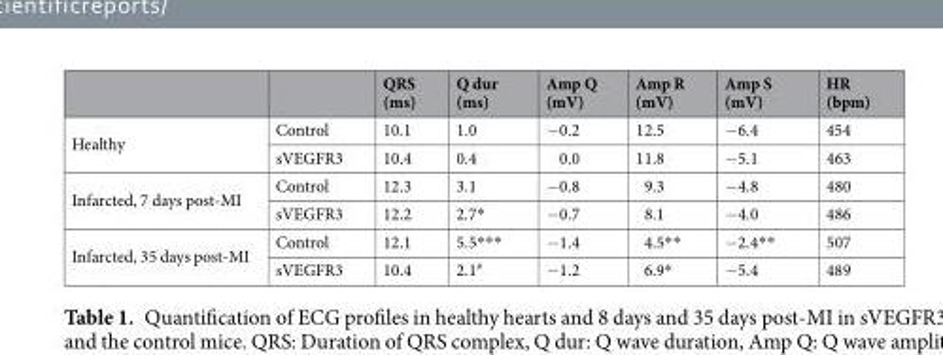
<table><thead><tr><td></td><td></td><td>QRS (ms)</td><td>Q dur (ms)</td><td>Amp Q (mV)</td><td>Amp R (mV)</td><td>Amp S (mV)</td><td>HR (bpm)</td></tr></thead><tbody><tr><td rowspan="2">Healthy</td><td>Control</td><td>10.1</td><td>1.0</td><td>−0.2</td><td>12.5</td><td>−6.4</td><td>454</td></tr><tr><td>sVEGFR3</td><td>10.4</td><td>0.4</td><td>0.0</td><td>11.8</td><td>−5.1</td><td>463</td></tr><tr><td rowspan="2">Infarcted, 7 days post-MI</td><td>Control</td><td>12.3</td><td>3.1</td><td>−0.8</td><td>9.3</td><td>−4.8</td><td>480</td></tr><tr><td>sVEGFR3</td><td>12.2</td><td>2.7*</td><td>−0.7</td><td>8.1</td><td>−4.0</td><td>486</td></tr><tr><td rowspan="2">Infarcted, 35 days post-MI</td><td>Control</td><td>12.1</td><td>5.5***</td><td>−1.4</td><td>4.5**</td><td>−2.4**</td><td>507</td></tr><tr><td>sVEGFR3</td><td>10.4</td><td>2.1<sup>#</sup></td><td>−1.2</td><td>6.9*</td><td>−5.4</td><td>489</td></tr></tbody></table>